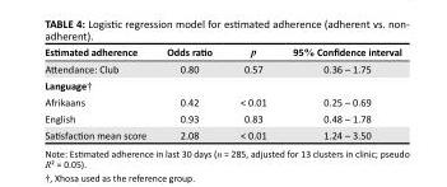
<table><thead><tr><td>Estimated adherence</td><td>Odds ratio</td><td>p</td><td>95% Confidence interval</td></tr></thead><tbody><tr><td>Attendance: Club</td><td>0.80</td><td>0.57</td><td>0.36 – 1.75</td></tr><tr><td colspan="4">Language†</td></tr><tr><td>Afrikaans</td><td>0.42</td><td>&lt; 0.01</td><td>0.25 – 0.69</td></tr><tr><td>English</td><td>0.93</td><td>0.83</td><td>0.48 – 1.78</td></tr><tr><td>Satisfaction mean score</td><td>2.08</td><td>&lt; 0.01</td><td>1.24 – 3.50</td></tr></tbody></table>